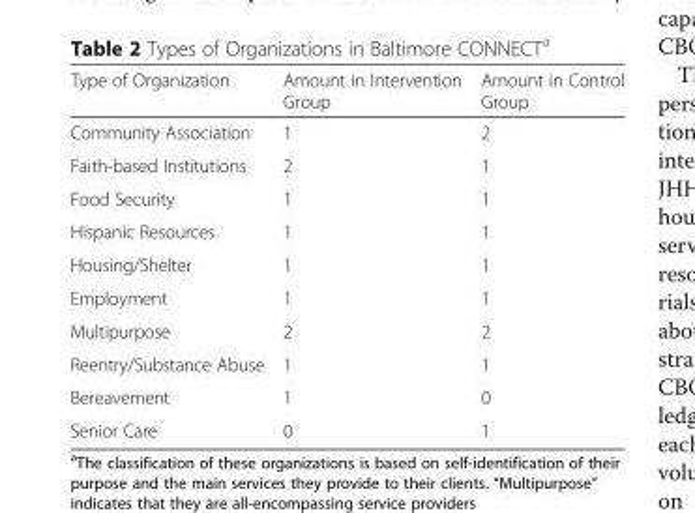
<table><thead><tr><td>Type of Organization</td><td>Amount in Intervention Group</td><td>Amount in Control Group</td></tr></thead><tbody><tr><td>Community Association</td><td>1</td><td>2</td></tr><tr><td>Faith-based Institutions</td><td>2</td><td>1</td></tr><tr><td>Food Security</td><td>1</td><td>1</td></tr><tr><td>Hispanic Resources</td><td>1</td><td>1</td></tr><tr><td>Housing/Shelter</td><td>1</td><td>1</td></tr><tr><td>Employment</td><td>1</td><td>1</td></tr><tr><td>Multipurpose</td><td>2</td><td>2</td></tr><tr><td>Reentry/Substance Abuse</td><td>1</td><td>1</td></tr><tr><td>Bereavement</td><td>1</td><td>0</td></tr><tr><td>Senior Care</td><td>0</td><td>1</td></tr></tbody></table>